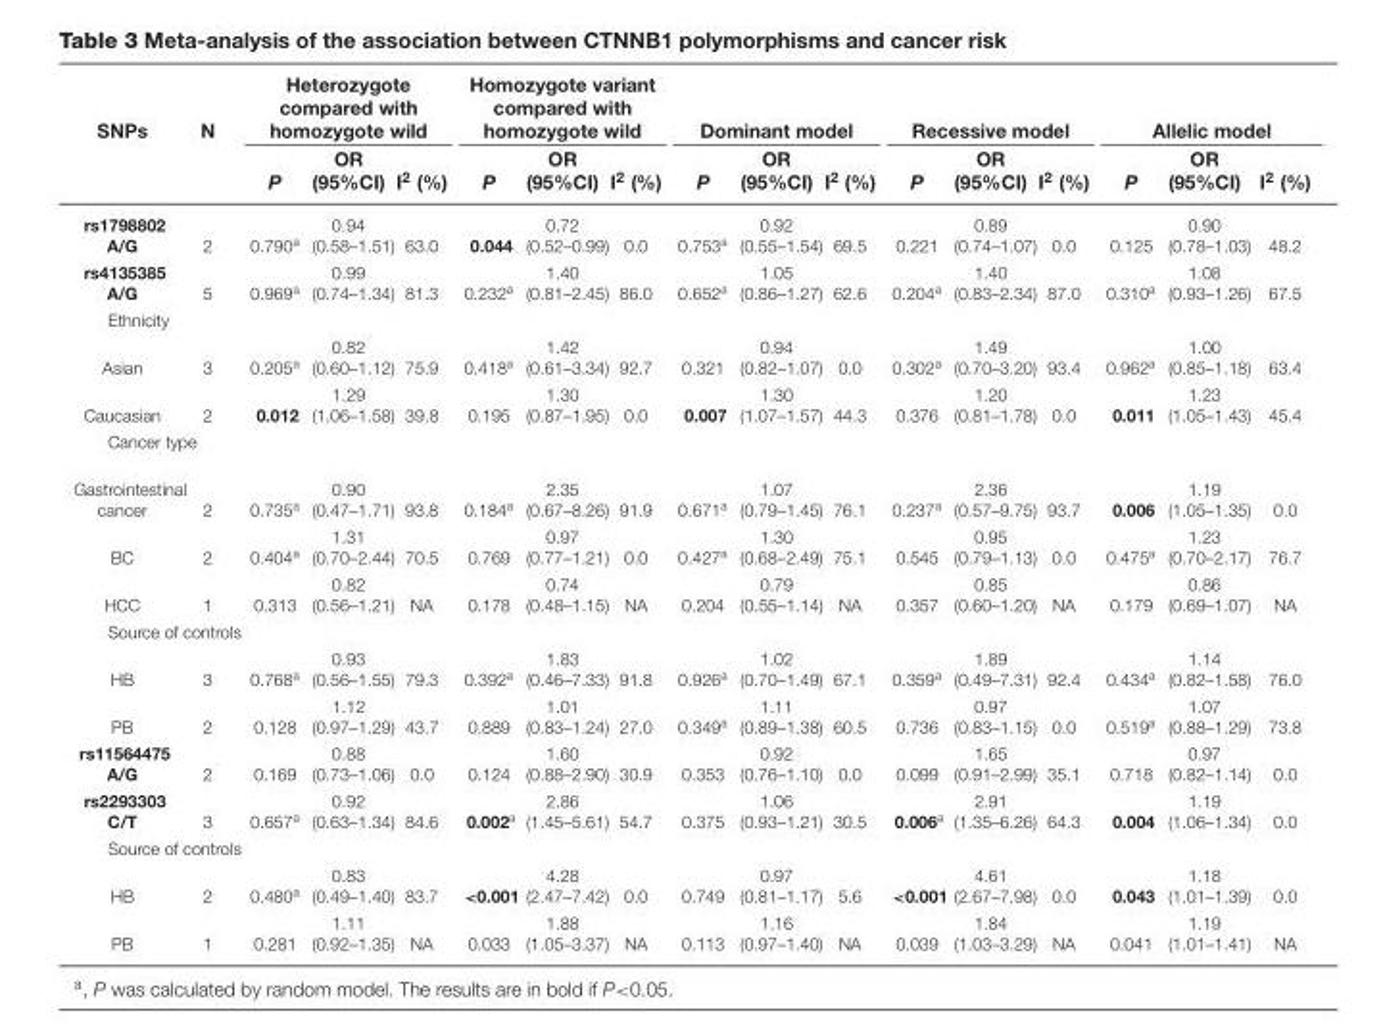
<table><thead><tr><td rowspan="2">SNPs</td><td rowspan="2">N</td><td colspan="3">Heterozygote compared with homozygote wild</td><td colspan="3">Homozygote variant compared with homozygote wild</td><td colspan="3">Dominant model</td><td colspan="3">Recessive model</td><td colspan="3">Allelic model</td></tr><tr><td>P</td><td>OR (95%CI)</td><td>I<sup>2</sup> (%)</td><td>P</td><td>OR (95%CI)</td><td>I<sup>2</sup> (%)</td><td>P</td><td>OR (95%CI)</td><td>I<sup>2</sup> (%)</td><td>P</td><td>OR (95%CI)</td><td>I<sup>2</sup> (%)</td><td>P</td><td>OR (95%CI)</td><td>I<sup>2</sup> (%)</td></tr></thead><tbody><tr><td>rs1798802 A/G</td><td>2</td><td>0.790<sup>a</sup></td><td>0.94 (0.58–1.51)</td><td>63.0</td><td>0.044</td><td>0.72 (0.52–0.99)</td><td>0.0</td><td>0.753<sup>a</sup></td><td>0.92 (0.55–1.54)</td><td>69.5</td><td>0.221</td><td>0.89 (0.74–1.07)</td><td>0.0</td><td>0.125</td><td>0.90 (0.78–1.03)</td><td>48.2</td></tr><tr><td>rs4135385 A/G</td><td>5</td><td>0.969<sup>a</sup></td><td>0.99 (0.74–1.34)</td><td>81.3</td><td>0.232<sup>a</sup></td><td>1.40 (0.81–2.45)</td><td>86.0</td><td>0.652<sup>a</sup></td><td>1.05 (0.86–1.27)</td><td>62.6</td><td>0.204<sup>a</sup></td><td>1.40 (0.83–2.34)</td><td>87.0</td><td>0.310<sup>a</sup></td><td>1.08 (0.93–1.26)</td><td>67.5</td></tr><tr><td colspan="17">Ethnicity</td></tr><tr><td>Asian</td><td>3</td><td>0.205<sup>a</sup></td><td>0.82 (0.60–1.12)</td><td>75.9</td><td>0.418<sup>a</sup></td><td>1.42 (0.61–3.34)</td><td>92.7</td><td>0.321</td><td>0.94 (0.82–1.07)</td><td>0.0</td><td>0.302<sup>a</sup></td><td>1.49 (0.70–3.20)</td><td>93.4</td><td>0.962<sup>a</sup></td><td>1.00 (0.85–1.18)</td><td>63.4</td></tr><tr><td>Caucasian</td><td>2</td><td>0.012</td><td>1.29 (1.06–1.58)</td><td>39.8</td><td>0.195</td><td>1.30 (0.87–1.95)</td><td>0.0</td><td>0.007</td><td>1.30 (1.07–1.57)</td><td>44.3</td><td>0.376</td><td>1.20 (0.81–1.78)</td><td>0.0</td><td>0.011</td><td>1.23 (1.05–1.43)</td><td>45.4</td></tr><tr><td colspan="17">Cancer type</td></tr><tr><td>Gastrointestinal cancer</td><td>2</td><td>0.735<sup>a</sup></td><td>0.90 (0.47–1.71)</td><td>93.8</td><td>0.184<sup>a</sup></td><td>2.35 (0.67–8.26)</td><td>91.9</td><td>0.671<sup>a</sup></td><td>1.07 (0.79–1.45)</td><td>76.1</td><td>0.237<sup>a</sup></td><td>2.36 (0.57–9.75)</td><td>93.7</td><td>0.006</td><td>1.19 (1.05–1.35)</td><td>0.0</td></tr><tr><td>BC</td><td>2</td><td>0.404<sup>a</sup></td><td>1.31 (0.70–2.44)</td><td>70.5</td><td>0.769</td><td>0.97 (0.77–1.21)</td><td>0.0</td><td>0.427<sup>a</sup></td><td>1.30 (0.68–2.49)</td><td>75.1</td><td>0.545</td><td>0.95 (0.79–1.13)</td><td>0.0</td><td>0.475<sup>a</sup></td><td>1.23 (0.70–2.17)</td><td>76.7</td></tr><tr><td>HCC</td><td>1</td><td>0.313</td><td>0.82 (0.56–1.21)</td><td>NA</td><td>0.178</td><td>0.74 (0.48–1.15)</td><td>NA</td><td>0.204</td><td>0.79 (0.55–1.14)</td><td>NA</td><td>0.357</td><td>0.85 (0.60–1.20)</td><td>NA</td><td>0.179</td><td>0.86 (0.69–1.07)</td><td>NA</td></tr><tr><td colspan="17">Source of controls</td></tr><tr><td>HB</td><td>3</td><td>0.768<sup>a</sup></td><td>0.93 (0.56–1.55)</td><td>79.3</td><td>0.392<sup>a</sup></td><td>1.83 (0.46–7.33)</td><td>91.8</td><td>0.926<sup>a</sup></td><td>1.02 (0.70–1.49)</td><td>67.1</td><td>0.359<sup>a</sup></td><td>1.89 (0.49–7.31)</td><td>92.4</td><td>0.434<sup>a</sup></td><td>1.14 (0.82–1.58)</td><td>76.0</td></tr><tr><td>PB</td><td>2</td><td>0.128</td><td>1.12 (0.97–1.29)</td><td>43.7</td><td>0.889</td><td>1.01 (0.83–1.24)</td><td>27.0</td><td>0.349<sup>a</sup></td><td>1.11 (0.89–1.38)</td><td>60.5</td><td>0.736</td><td>0.97 (0.83–1.15)</td><td>0.0</td><td>0.519<sup>a</sup></td><td>1.07 (0.88–1.29)</td><td>73.8</td></tr><tr><td>rs11564475 A/G</td><td>2</td><td>0.169</td><td>0.88 (0.73–1.06)</td><td>0.0</td><td>0.124</td><td>1.60 (0.88–2.90)</td><td>30.9</td><td>0.353</td><td>0.92 (0.76–1.10)</td><td>0.0</td><td>0.099</td><td>1.65 (0.91–2.99)</td><td>35.1</td><td>0.718</td><td>0.97 (0.82–1.14)</td><td>0.0</td></tr><tr><td>rs2293303 C/T</td><td>3</td><td>0.657<sup>a</sup></td><td>0.92 (0.63–1.34)</td><td>84.6</td><td>0.002<sup>a</sup></td><td>2.86 (1.45–5.61)</td><td>54.7</td><td>0.375</td><td>1.06 (0.93–1.21)</td><td>30.5</td><td>0.006<sup>a</sup></td><td>2.91 (1.35–6.26)</td><td>64.3</td><td>0.004</td><td>1.19 (1.06–1.34)</td><td>0.0</td></tr><tr><td colspan="17">Source of controls</td></tr><tr><td>HB</td><td>2</td><td>0.480<sup>a</sup></td><td>0.83 (0.49–1.40)</td><td>83.7</td><td>&lt;0.001</td><td>4.28 (2.47–7.42)</td><td>0.0</td><td>0.749</td><td>0.97 (0.81–1.17)</td><td>5.6</td><td>&lt;0.001</td><td>4.61 (2.67–7.98)</td><td>0.0</td><td>0.043</td><td>1.18 (1.01–1.39)</td><td>0.0</td></tr><tr><td>PB</td><td>1</td><td>0.281</td><td>1.11 (0.92–1.35)</td><td>NA</td><td>0.033</td><td>1.88 (1.05–3.37)</td><td>NA</td><td>0.113</td><td>1.16 (0.97–1.40)</td><td>NA</td><td>0.039</td><td>1.84 (1.03–3.29)</td><td>NA</td><td>0.041</td><td>1.19 (1.01–1.41)</td><td>NA</td></tr></tbody></table>